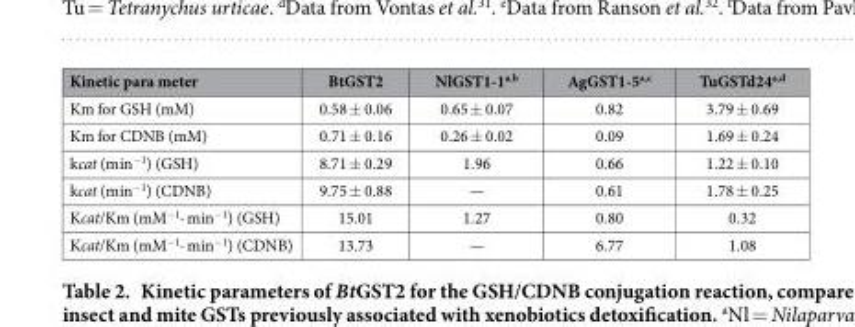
<table><thead><tr><td>Kinetic para meter</td><td>BtGST2</td><td>NlGST1-1<sup>a</sup>,<sup>b</sup></td><td>AgGST1-5<sup>a</sup>,<sup>c</sup></td><td>TuGSTd24<sup>a</sup>,<sup>d</sup></td></tr></thead><tbody><tr><td>Km for GSH (mM)</td><td>0.58 ± 0.06</td><td>0.65 ± 0.07</td><td>0.82</td><td>3.79 ± 0.69</td></tr><tr><td>Km for CDNB (mM)</td><td>0.71 ± 0.16</td><td>0.26 ± 0.02</td><td>0.09</td><td>1.69 ± 0.24</td></tr><tr><td>kcat (min<sup>−1</sup>) (GSH)</td><td>8.71 ± 0.29</td><td>1.96</td><td>0.66</td><td>1.22 ± 0.10</td></tr><tr><td>kcat (min<sup>−1</sup>) (CDNB)</td><td>9.75 ± 0.88</td><td>—</td><td>0.61</td><td>1.78 ± 0.25</td></tr><tr><td>Kcat/Km (mM<sup>−1</sup>· min<sup>−1</sup>) (GSH)</td><td>15.01</td><td>1.27</td><td>0.80</td><td>0.32</td></tr><tr><td>Kcat/Km (mM<sup>−1</sup>· min<sup>−1</sup>) (CDNB)</td><td>13.73</td><td>—</td><td>6.77</td><td>1.08</td></tr></tbody></table>